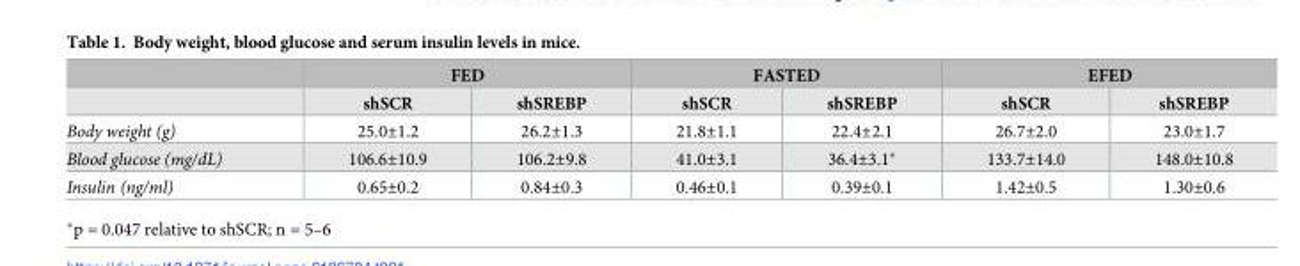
<table><thead><tr><td rowspan="2"></td><td colspan="2">FED</td><td colspan="2">FASTED</td><td colspan="2">EFED</td></tr><tr><td>shSCR</td><td>shSREBP</td><td>shSCR</td><td>shSREBP</td><td>shSCR</td><td>shSREBP</td></tr></thead><tbody><tr><td>Body weight (g)</td><td>25.0±1.2</td><td>26.2±1.3</td><td>21.8±1.1</td><td>22.4±2.1</td><td>26.7±2.0</td><td>23.0±1.7</td></tr><tr><td>Blood glucose (mg/dL)</td><td>106.6±10.9</td><td>106.2±9.8</td><td>41.0±3.1</td><td>36.4±3.1*</td><td>133.7±14.0</td><td>148.0±10.8</td></tr><tr><td>Insulin (ng/ml)</td><td>0.65±0.2</td><td>0.84±0.3</td><td>0.46±0.1</td><td>0.39±0.1</td><td>1.42±0.5</td><td>1.30±0.6</td></tr></tbody></table>